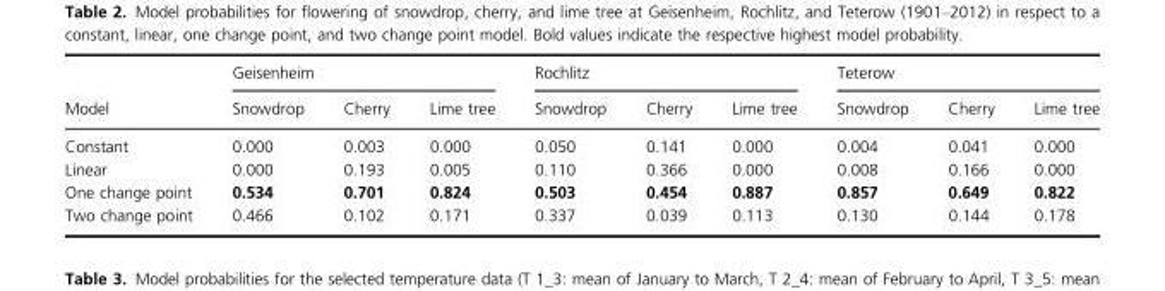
<table><thead><tr><td rowspan="2">Model</td><td colspan="3">Geisenheim</td><td colspan="3">Rochlitz</td><td colspan="3">Teterow</td></tr><tr><td>Snowdrop</td><td>Cherry</td><td>Lime tree</td><td>Snowdrop</td><td>Cherry</td><td>Lime tree</td><td>Snowdrop</td><td>Cherry</td><td>Lime tree</td></tr></thead><tbody><tr><td>Constant</td><td>0.000</td><td>0.003</td><td>0.000</td><td>0.050</td><td>0.141</td><td>0.000</td><td>0.004</td><td>0.041</td><td>0.000</td></tr><tr><td>Linear</td><td>0.000</td><td>0.193</td><td>0.005</td><td>0.110</td><td>0.366</td><td>0.000</td><td>0.008</td><td>0.166</td><td>0.000</td></tr><tr><td>One change point</td><td>0.534</td><td>0.701</td><td>0.824</td><td>0.503</td><td>0.454</td><td>0.887</td><td>0.857</td><td>0.649</td><td>0.822</td></tr><tr><td>Two change point</td><td>0.466</td><td>0.102</td><td>0.171</td><td>0.337</td><td>0.039</td><td>0.113</td><td>0.130</td><td>0.144</td><td>0.178</td></tr></tbody></table>